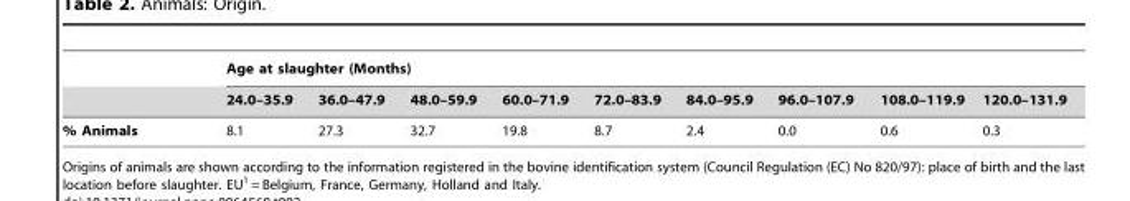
<table><thead><tr><td rowspan="2"></td><td colspan="9">Age at slaughter (Months)</td></tr><tr><td>24.0–35.9</td><td>36.0–47.9</td><td>48.0–59.9</td><td>60.0–71.9</td><td>72.0–83.9</td><td>84.0–95.9</td><td>96.0–107.9</td><td>108.0–119.9</td><td>120.0–131.9</td></tr></thead><tbody><tr><td>% Animals</td><td>8.1</td><td>27.3</td><td>32.7</td><td>19.8</td><td>8.7</td><td>2.4</td><td>0.0</td><td>0.6</td><td>0.3</td></tr></tbody></table>